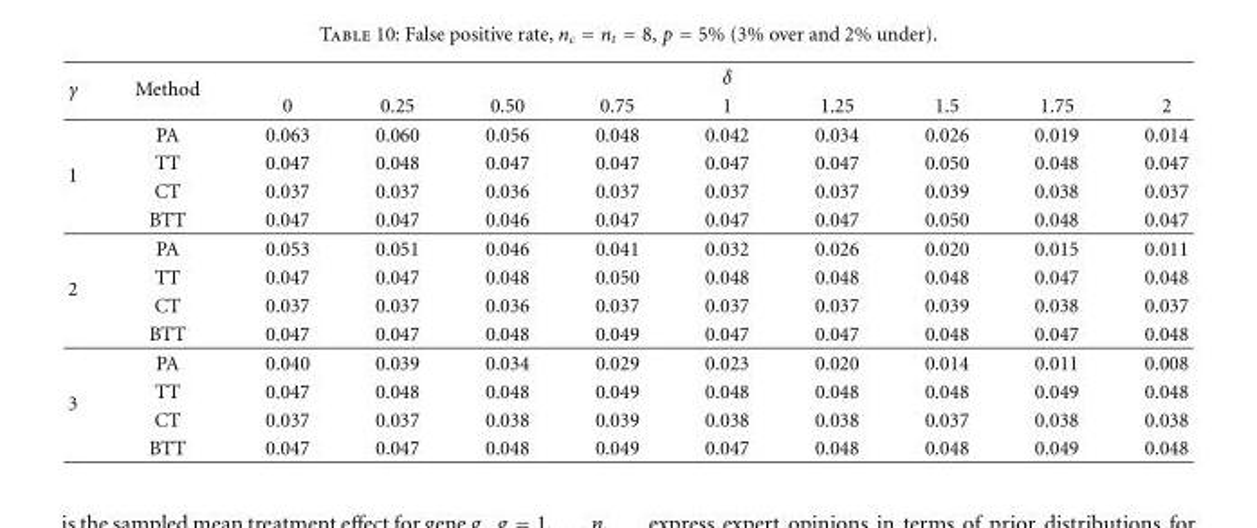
<table><thead><tr><td rowspan="2">γ</td><td rowspan="2">Method</td><td colspan="9">δ</td></tr><tr><td>0</td><td>0.25</td><td>0.50</td><td>0.75</td><td>1</td><td>1.25</td><td>1.5</td><td>1.75</td><td>2</td></tr></thead><tbody><tr><td rowspan="4">1</td><td>PA</td><td>0.063</td><td>0.060</td><td>0.056</td><td>0.048</td><td>0.042</td><td>0.034</td><td>0.026</td><td>0.019</td><td>0.014</td></tr><tr><td>TT</td><td>0.047</td><td>0.048</td><td>0.047</td><td>0.047</td><td>0.047</td><td>0.047</td><td>0.050</td><td>0.048</td><td>0.047</td></tr><tr><td>CT</td><td>0.037</td><td>0.037</td><td>0.036</td><td>0.037</td><td>0.037</td><td>0.037</td><td>0.039</td><td>0.038</td><td>0.037</td></tr><tr><td>BTT</td><td>0.047</td><td>0.047</td><td>0.046</td><td>0.047</td><td>0.047</td><td>0.047</td><td>0.050</td><td>0.048</td><td>0.047</td></tr><tr><td rowspan="4">2</td><td>PA</td><td>0.053</td><td>0.051</td><td>0.046</td><td>0.041</td><td>0.032</td><td>0.026</td><td>0.020</td><td>0.015</td><td>0.011</td></tr><tr><td>TT</td><td>0.047</td><td>0.047</td><td>0.048</td><td>0.050</td><td>0.048</td><td>0.048</td><td>0.048</td><td>0.047</td><td>0.048</td></tr><tr><td>CT</td><td>0.037</td><td>0.037</td><td>0.036</td><td>0.037</td><td>0.037</td><td>0.037</td><td>0.039</td><td>0.038</td><td>0.037</td></tr><tr><td>BTT</td><td>0.047</td><td>0.047</td><td>0.048</td><td>0.049</td><td>0.047</td><td>0.047</td><td>0.048</td><td>0.047</td><td>0.048</td></tr><tr><td rowspan="4">3</td><td>PA</td><td>0.040</td><td>0.039</td><td>0.034</td><td>0.029</td><td>0.023</td><td>0.020</td><td>0.014</td><td>0.011</td><td>0.008</td></tr><tr><td>TT</td><td>0.047</td><td>0.048</td><td>0.048</td><td>0.049</td><td>0.048</td><td>0.048</td><td>0.048</td><td>0.049</td><td>0.048</td></tr><tr><td>CT</td><td>0.037</td><td>0.037</td><td>0.038</td><td>0.039</td><td>0.038</td><td>0.038</td><td>0.037</td><td>0.038</td><td>0.038</td></tr><tr><td>BTT</td><td>0.047</td><td>0.047</td><td>0.048</td><td>0.049</td><td>0.047</td><td>0.048</td><td>0.048</td><td>0.049</td><td>0.048</td></tr></tbody></table>